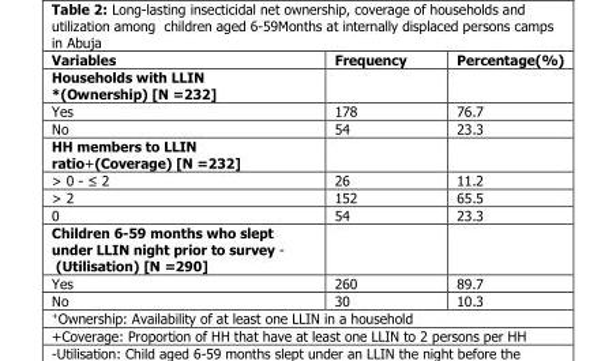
<table><thead><tr><td>Variables</td><td>Frequency</td><td>Percentage(%)</td></tr></thead><tbody><tr><td colspan="3">Households with LLIN *(Ownership) [N =232]</td></tr><tr><td>Yes</td><td>178</td><td>76.7</td></tr><tr><td>No</td><td>54</td><td>23.3</td></tr><tr><td colspan="3">HH members to LLIN ratio+(Coverage) [N =232]</td></tr><tr><td>&gt; 0 - ≤ 2</td><td>26</td><td>11.2</td></tr><tr><td>&gt; 2</td><td>152</td><td>65.5</td></tr><tr><td>0</td><td>54</td><td>23.3</td></tr><tr><td colspan="3">Children 6-59 months who slept under LLIN night prior to survey - (Utilisation) [N =290]</td></tr><tr><td>Yes</td><td>260</td><td>89.7</td></tr><tr><td>No</td><td>30</td><td>10.3</td></tr></tbody></table>